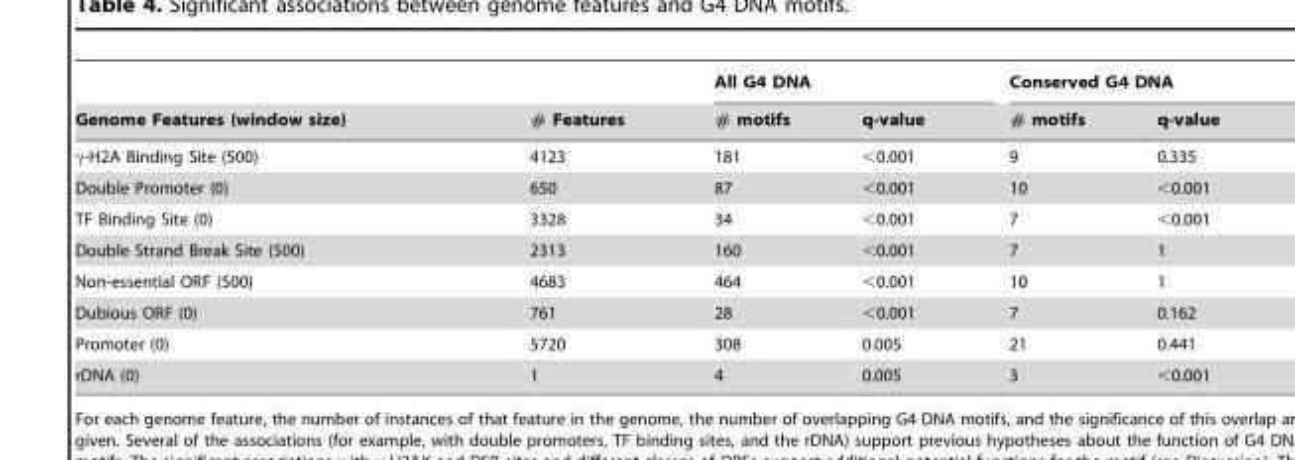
<table><thead><tr><td rowspan="2">Genome Features (window size)</td><td rowspan="2"># Features</td><td colspan="2">All G4 DNA</td><td colspan="2">Conserved G4 DNA</td></tr><tr><td># motifs</td><td>q-value</td><td># motifs</td><td>q-value</td></tr></thead><tbody><tr><td>γ-H2A Binding Site (500)</td><td>4123</td><td>181</td><td>&lt;0.001</td><td>9</td><td>0.335</td></tr><tr><td>Double Promoter (0)</td><td>650</td><td>87</td><td>&lt;0.001</td><td>10</td><td>&lt;0.001</td></tr><tr><td>TF Binding Site (0)</td><td>3328</td><td>34</td><td>&lt;0.001</td><td>7</td><td>&lt;0.001</td></tr><tr><td>Double Strand Break Site (500)</td><td>2313</td><td>160</td><td>&lt;0.001</td><td>7</td><td>1</td></tr><tr><td>Non-essential ORF (500)</td><td>4683</td><td>464</td><td>&lt;0.001</td><td>10</td><td>1</td></tr><tr><td>Dubious ORF (0)</td><td>761</td><td>28</td><td>&lt;0.001</td><td>7</td><td>0.162</td></tr><tr><td>Promoter (0)</td><td>5720</td><td>308</td><td>0.005</td><td>21</td><td>0.441</td></tr><tr><td>rDNA (0)</td><td>1</td><td>4</td><td>0.005</td><td>3</td><td>&lt;0.001</td></tr></tbody></table>